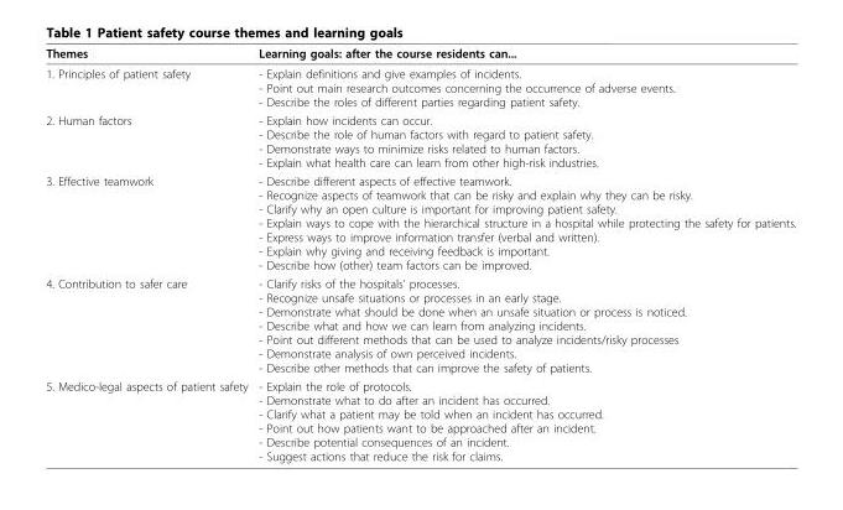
<table><thead><tr><td>Themes</td><td>Learning goals: after the course residents can...</td></tr></thead><tbody><tr><td>1. Principles of patient safety</td><td>- Explain definitions and give examples of incidents. - Point out main research outcomes concerning the occurrence of adverse events. - Describe the roles of different parties regarding patient safety.</td></tr><tr><td>2. Human factors</td><td>- Explain how incidents can occur. - Describe the role of human factors with regard to patient safety. - Demonstrate ways to minimize risks related to human factors. - Explain what health care can learn from other high-risk industries.</td></tr><tr><td>3. Effective teamwork</td><td>- Describe different aspects of effective teamwork. - Recognize aspects of teamwork that can be risky and explain why they can be risky. - Clarify why an open culture is important for improving patient safety. - Explain ways to cope with the hierarchical structure in a hospital while protecting the safety for patients. - Express ways to improve information transfer (verbal and written). - Explain why giving and receiving feedback is important. - Describe how (other) team factors can be improved.</td></tr><tr><td>4. Contribution to safer care</td><td>- Clarify risks of the hospitals’ processes. - Recognize unsafe situations or processes in an early stage. - Demonstrate what should be done when an unsafe situation or process is noticed. - Describe what and how we can learn from analyzing incidents. - Point out different methods that can be used to analyze incidents/risky processes - Demonstrate analysis of own perceived incidents. - Describe other methods that can improve the safety of patients.</td></tr><tr><td>5. Medico-legal aspects of patient safety</td><td>- Explain the role of protocols. - Demonstrate what to do after an incident has occurred. - Clarify what a patient may be told when an incident has occurred. - Point out how patients want to be approached after an incident. - Describe potential consequences of an incident. - Suggest actions that reduce the risk for claims.</td></tr></tbody></table>